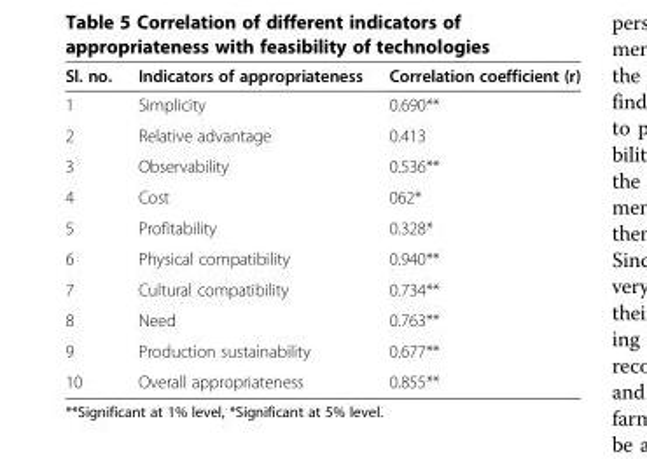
<table><thead><tr><td>Sl. no.</td><td>Indicators of appropriateness</td><td>Correlation coefficient (r)</td></tr></thead><tbody><tr><td>1</td><td>Simplicity</td><td>0.690**</td></tr><tr><td>2</td><td>Relative advantage</td><td>0.413</td></tr><tr><td>3</td><td>Observability</td><td>0.536**</td></tr><tr><td>4</td><td>Cost</td><td>062*</td></tr><tr><td>5</td><td>Profitability</td><td>0.328*</td></tr><tr><td>6</td><td>Physical compatibility</td><td>0.940**</td></tr><tr><td>7</td><td>Cultural compatibility</td><td>0.734**</td></tr><tr><td>8</td><td>Need</td><td>0.763**</td></tr><tr><td>9</td><td>Production sustainability</td><td>0.677**</td></tr><tr><td>10</td><td>Overall appropriateness</td><td>0.855**</td></tr></tbody></table>